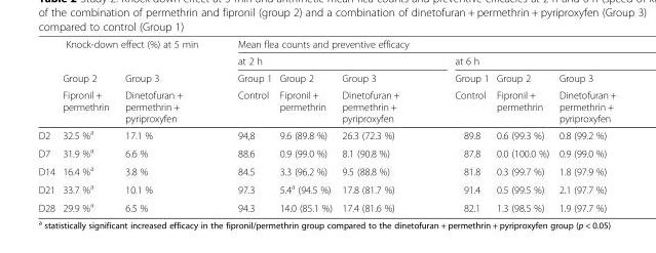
<table><thead><tr><td rowspan="4"></td><td rowspan="2" colspan="2">Knock-down effect (%) at 5 min</td><td colspan="6">Mean flea counts and preventive efficacy</td></tr><tr><td colspan="3">at 2 h</td><td colspan="3">at 6 h</td></tr><tr><td rowspan="2">Group 2 Fipronil + permethrin</td><td rowspan="2">Group 3 Dinetofuran + permethrin + pyriproxyfen</td><td rowspan="2">Group 1 Control</td><td rowspan="2">Group 2 Fipronil + permethrin</td><td rowspan="2">Group 3 Dinetofuran + permethrin + pyriproxyfen</td><td rowspan="2">Group 1 Control</td><td rowspan="2">Group 2 Fipronil + permethrin</td><td rowspan="2">Group 3 Dinetofuran + permethrin + pyriproxyfen</td></tr><tr></tr></thead><tbody><tr><td>D2</td><td>32.5 %<sup>a</sup></td><td>17.1 %</td><td>94,8</td><td>9.6 (89.8 %)</td><td>26.3 (72.3 %)</td><td>89.8</td><td>0.6 (99.3 %)</td><td>0.8 (99.2 %)</td></tr><tr><td>D7</td><td>31.9 %<sup>a</sup></td><td>6.6 %</td><td>88.6</td><td>0.9 (99.0 %)</td><td>8.1 (90.8 %)</td><td>87.8</td><td>0.0 (100.0 %)</td><td>0.9 (99.0 %)</td></tr><tr><td>D14</td><td>16.4 %<sup>a</sup></td><td>3.8 %</td><td>84.5</td><td>3.3 (96.2 %)</td><td>9.5 (88.8 %)</td><td>81.8</td><td>0.3 (99.7 %)</td><td>1.8 (97.9 %)</td></tr><tr><td>D21</td><td>33.7 %<sup>a</sup></td><td>10.1 %</td><td>97.3</td><td>5.4<sup>a</sup> (94.5 %)</td><td>17.8 (81.7 %)</td><td>91.4</td><td>0.5 (99.5 %)</td><td>2.1 (97.7 %)</td></tr><tr><td>D28</td><td>29.9 %<sup>a</sup></td><td>6.5 %</td><td>94.3</td><td>14.0 (85.1 %)</td><td>17.4 (81.6 %)</td><td>82.1</td><td>1.3 (98.5 %)</td><td>1.9 (97.7 %)</td></tr></tbody></table>